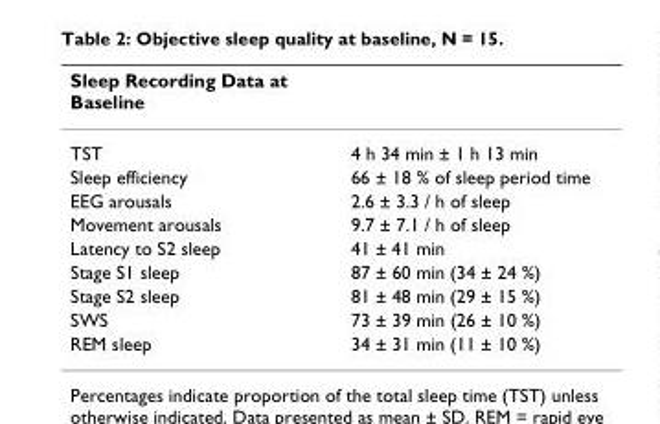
<table><thead><tr><td>Sleep Recording Data at Baseline</td><td></td></tr></thead><tbody><tr><td>TST</td><td>4 h 34 min ± 1 h 13 min</td></tr><tr><td>Sleep efficiency</td><td>66 ± 18 % of sleep period time</td></tr><tr><td>EEG arousals</td><td>2.6 ± 3.3 / h of sleep</td></tr><tr><td>Movement arousals</td><td>9.7 ± 7.1 / h of sleep</td></tr><tr><td>Latency to S2 sleep</td><td>41 ± 41 min</td></tr><tr><td>Stage S1 sleep</td><td>87 ± 60 min (34 ± 24 %)</td></tr><tr><td>Stage S2 sleep</td><td>81 ± 48 min (29 ± 15 %)</td></tr><tr><td>SWS</td><td>73 ± 39 min (26 ± 10 %)</td></tr><tr><td>REM sleep</td><td>34 ± 31 min (11 ± 10 %)</td></tr></tbody></table>